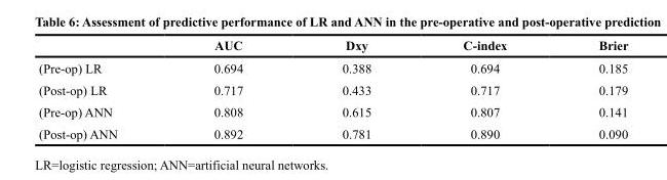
<table><thead><tr><td></td><td>AUC</td><td>Dxy</td><td>C-index</td><td>Brier</td></tr></thead><tbody><tr><td>(Pre-op) LR</td><td>0.694</td><td>0.388</td><td>0.694</td><td>0.185</td></tr><tr><td>(Post-op) LR</td><td>0.717</td><td>0.433</td><td>0.717</td><td>0.179</td></tr><tr><td>(Pre-op) ANN</td><td>0.808</td><td>0.615</td><td>0.807</td><td>0.141</td></tr><tr><td>(Post-op) ANN</td><td>0.892</td><td>0.781</td><td>0.890</td><td>0.090</td></tr></tbody></table>